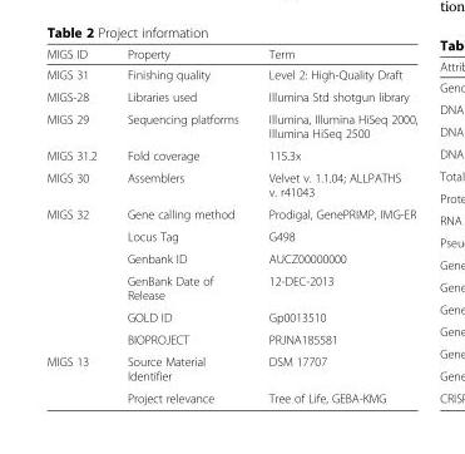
<table><thead><tr><td>MIGS ID</td><td>Property</td><td>Term</td></tr></thead><tbody><tr><td>MIGS 31</td><td>Finishing quality</td><td>Level 2: High-Quality Draft</td></tr><tr><td>MIGS-28</td><td>Libraries used</td><td>Illumina Std shotgun library</td></tr><tr><td>MIGS 29</td><td>Sequencing platforms</td><td>Illumina, Illumina HiSeq 2000, Illumina HiSeq 2500</td></tr><tr><td>MIGS 31.2</td><td>Fold coverage</td><td>115.3x</td></tr><tr><td>MIGS 30</td><td>Assemblers</td><td>Velvet v. 1.1.04; ALLPATHS v. r41043</td></tr><tr><td rowspan="6">MIGS 32</td><td>Gene calling method</td><td>Prodigal, GenePRIMP, IMG-ER</td></tr><tr><td>Locus Tag</td><td>G498</td></tr><tr><td>Genbank ID</td><td>AUCZ00000000</td></tr><tr><td>GenBank Date of Release</td><td>12-DEC-2013</td></tr><tr><td>GOLD ID</td><td>Gp0013510</td></tr><tr><td>BIOPROJECT</td><td>PRJNA185581</td></tr><tr><td rowspan="2">MIGS 13</td><td>Source Material Identifier</td><td>DSM 17707</td></tr><tr><td>Project relevance</td><td>Tree of Life, GEBA-KMG</td></tr></tbody></table>